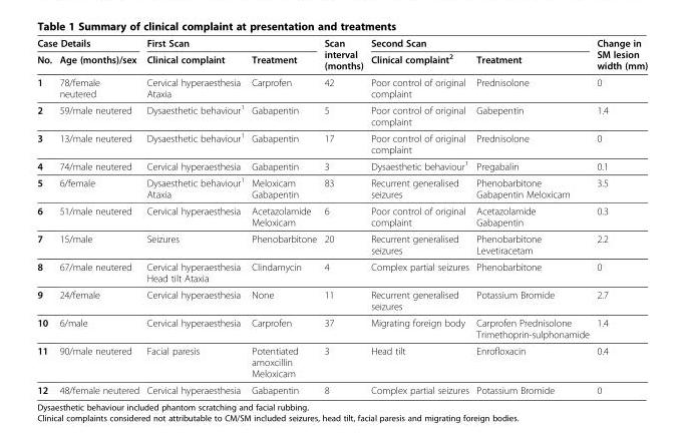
<table><thead><tr><td colspan="2">Case Details</td><td colspan="2">First Scan</td><td rowspan="2">Scan interval (months)</td><td colspan="2">Second Scan</td><td rowspan="2">Change in SM lesion width (mm)</td></tr><tr><td>No.</td><td>Age (months)/sex</td><td>Clinical complaint</td><td>Treatment</td><td>Clinical complaint<sup>2</sup></td><td>Treatment</td></tr></thead><tbody><tr><td>1</td><td>78/female neutered</td><td>Cervical hyperaesthesia Ataxia</td><td>Carprofen</td><td>42</td><td>Poor control of original complaint</td><td>Prednisolone</td><td>0</td></tr><tr><td>2</td><td>59/male neutered</td><td>Dysaesthetic behaviour<sup>1</sup></td><td>Gabapentin</td><td>5</td><td>Poor control of original complaint</td><td>Gabepentin</td><td>1.4</td></tr><tr><td>3</td><td>13/male neutered</td><td>Dysaesthetic behaviour<sup>1</sup></td><td>Gabapentin</td><td>17</td><td>Poor control of original complaint</td><td>Prednisolone</td><td>0</td></tr><tr><td>4</td><td>74/male neutered</td><td>Cervical hyperaesthesia</td><td>Gabapentin</td><td>3</td><td>Dysaesthetic behaviour<sup>1</sup></td><td>Pregabalin</td><td>0.1</td></tr><tr><td>5</td><td>6/female</td><td>Dysaesthetic behaviour<sup>1</sup> Ataxia</td><td>Meloxicam Gabapentin</td><td>83</td><td>Recurrent generalised seizures</td><td>Phenobarbitone Gabapentin Meloxicam</td><td>3.5</td></tr><tr><td>6</td><td>51/male neutered</td><td>Cervical hyperaesthesia</td><td>Acetazolamide Meloxicam</td><td>6</td><td>Poor control of original complaint</td><td>Acetazolamide Gabapentin</td><td>0.3</td></tr><tr><td>7</td><td>15/male</td><td>Seizures</td><td>Phenobarbitone</td><td>20</td><td>Recurrent generalised seizures</td><td>Phenobarbitone Levetiracetam</td><td>2.2</td></tr><tr><td>8</td><td>67/male neutered</td><td>Cervical hyperaesthesia Head tilt Ataxia</td><td>Clindamycin</td><td>4</td><td>Complex partial seizures</td><td>Phenobarbitone</td><td>0</td></tr><tr><td>9</td><td>24/female</td><td>Cervical hyperaesthesia</td><td>None</td><td>11</td><td>Recurrent generalised seizures</td><td>Potassium Bromide</td><td>2.7</td></tr><tr><td>10</td><td>6/male</td><td>Cervical hyperaesthesia</td><td>Carprofen</td><td>37</td><td>Migrating foreign body</td><td>Carprofen Prednisolone Trimethoprin-sulphonamide</td><td>1.4</td></tr><tr><td>11</td><td>90/male neutered</td><td>Facial paresis</td><td>Potentiated amoxcillin Meloxicam</td><td>3</td><td>Head tilt</td><td>Enrofloxacin</td><td>0.4</td></tr><tr><td>12</td><td>48/female neutered</td><td>Cervical hyperaesthesia</td><td>Gabapentin</td><td>8</td><td>Complex partial seizures</td><td>Potassium Bromide</td><td>0</td></tr></tbody></table>